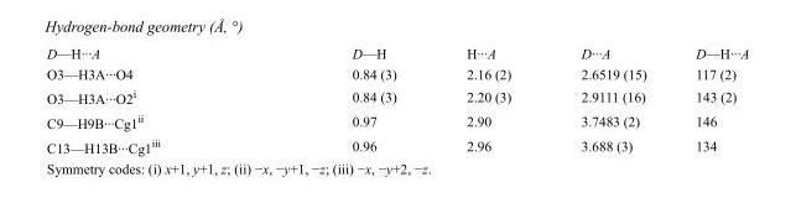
<table><tbody><tr><td>D—H···A</td><td>D—H</td><td>H···A</td><td>D···A</td><td>D—H···A</td></tr><tr><td>O3—H3A···O4</td><td>0.84 (3)</td><td>2.16 (2)</td><td>2.6519 (15)</td><td>117 (2)</td></tr><tr><td>O3—H3A···O2<sup>i</sup></td><td>0.84 (3)</td><td>2.20 (3)</td><td>2.9111 (16)</td><td>143 (2)</td></tr><tr><td>C9—H9B···Cg1<sup>ii</sup></td><td>0.97</td><td>2.90</td><td>3.7483 (2)</td><td>146</td></tr><tr><td>C13—H13B···Cg1<sup>iii</sup></td><td>0.96</td><td>2.96</td><td>3.688 (3)</td><td>134</td></tr></tbody></table>